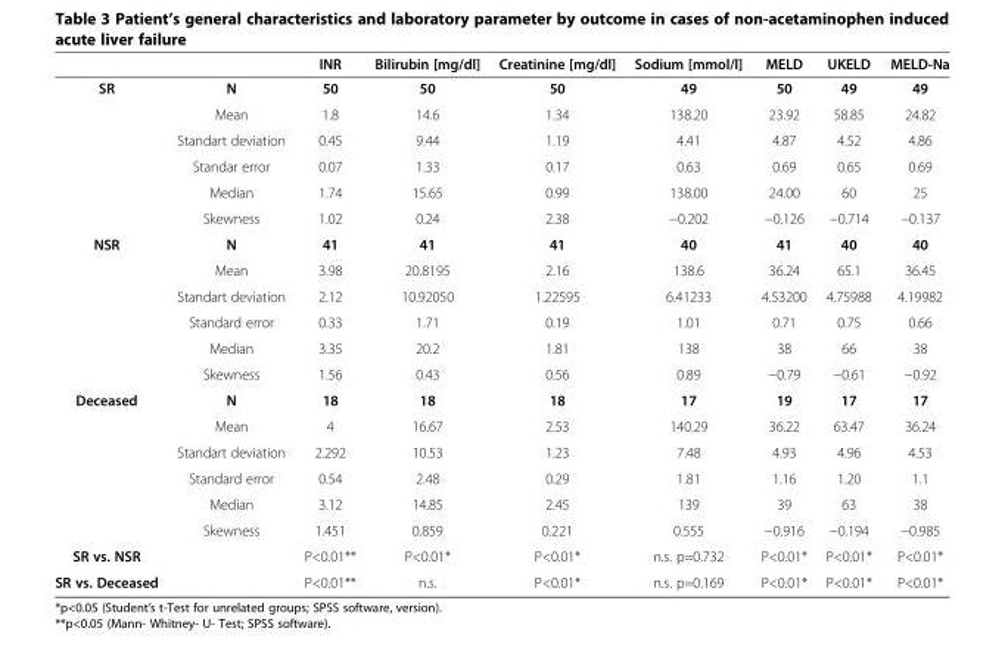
<table><thead><tr><td></td><td></td><td>INR</td><td>Bilirubin [mg/dl]</td><td>Creatinine [mg/dl]</td><td>Sodium [mmol/l]</td><td>MELD</td><td>UKELD</td><td>MELD-Na</td></tr></thead><tbody><tr><td rowspan="6">SR</td><td>N</td><td>50</td><td>50</td><td>50</td><td>49</td><td>50</td><td>49</td><td>49</td></tr><tr><td>Mean</td><td>1.8</td><td>14.6</td><td>1.34</td><td>138.20</td><td>23.92</td><td>58.85</td><td>24.82</td></tr><tr><td>Standart deviation</td><td>0.45</td><td>9.44</td><td>1.19</td><td>4.41</td><td>4.87</td><td>4.52</td><td>4.86</td></tr><tr><td>Standar error</td><td>0.07</td><td>1.33</td><td>0.17</td><td>0.63</td><td>0.69</td><td>0.65</td><td>0.69</td></tr><tr><td>Median</td><td>1.74</td><td>15.65</td><td>0.99</td><td>138.00</td><td>24.00</td><td>60</td><td>25</td></tr><tr><td>Skewness</td><td>1.02</td><td>0.24</td><td>2.38</td><td>−0.202</td><td>−0.126</td><td>−0.714</td><td>−0.137</td></tr><tr><td rowspan="6">NSR</td><td>N</td><td>41</td><td>41</td><td>41</td><td>40</td><td>41</td><td>40</td><td>40</td></tr><tr><td>Mean</td><td>3.98</td><td>20.8195</td><td>2.16</td><td>138.6</td><td>36.24</td><td>65.1</td><td>36.45</td></tr><tr><td>Standart deviation</td><td>2.12</td><td>10.92050</td><td>1.22595</td><td>6.41233</td><td>4.53200</td><td>4.75988</td><td>4.19982</td></tr><tr><td>Standard error</td><td>0.33</td><td>1.71</td><td>0.19</td><td>1.01</td><td>0.71</td><td>0.75</td><td>0.66</td></tr><tr><td>Median</td><td>3.35</td><td>20.2</td><td>1.81</td><td>138</td><td>38</td><td>66</td><td>38</td></tr><tr><td>Skewness</td><td>1.56</td><td>0.43</td><td>0.56</td><td>0.89</td><td>−0.79</td><td>−0.61</td><td>−0.92</td></tr><tr><td rowspan="6">Deceased</td><td>N</td><td>18</td><td>18</td><td>18</td><td>17</td><td>19</td><td>17</td><td>17</td></tr><tr><td>Mean</td><td>4</td><td>16.67</td><td>2.53</td><td>140.29</td><td>36.22</td><td>63.47</td><td>36.24</td></tr><tr><td>Standart deviation</td><td>2.292</td><td>10.53</td><td>1.23</td><td>7.48</td><td>4.93</td><td>4.96</td><td>4.53</td></tr><tr><td>Standard error</td><td>0.54</td><td>2.48</td><td>0.29</td><td>1.81</td><td>1.16</td><td>1.20</td><td>1.1</td></tr><tr><td>Median</td><td>3.12</td><td>14.85</td><td>2.45</td><td>139</td><td>39</td><td>63</td><td>38</td></tr><tr><td>Skewness</td><td>1.451</td><td>0.859</td><td>0.221</td><td>0.555</td><td>−0.916</td><td>−0.194</td><td>−0.985</td></tr><tr><td>SR vs. NSR</td><td></td><td>P&lt;0.01**</td><td>P&lt;0.01*</td><td>P&lt;0.01*</td><td>n.s. p=0.732</td><td>P&lt;0.01*</td><td>P&lt;0.01*</td><td>P&lt;0.01*</td></tr><tr><td>SR vs. Deceased</td><td></td><td>P&lt;0.01**</td><td>n.s.</td><td>P&lt;0.01*</td><td>n.s. p=0.169</td><td>P&lt;0.01*</td><td>P&lt;0.01*</td><td>P&lt;0.01*</td></tr></tbody></table>